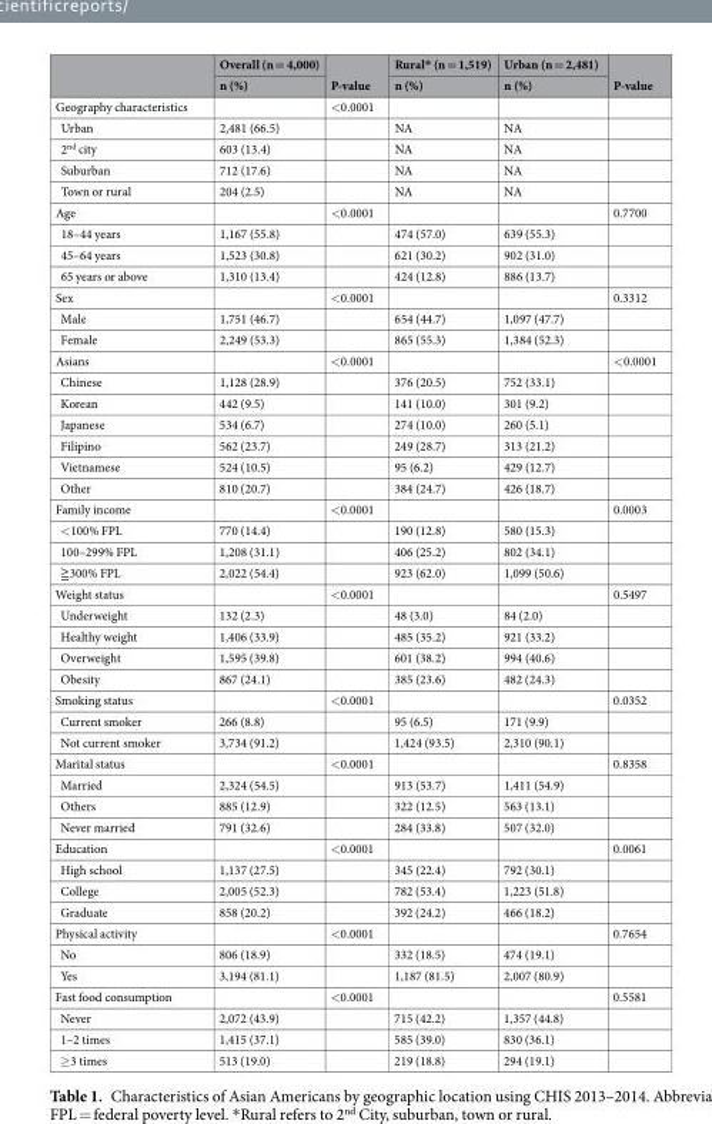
<table><thead><tr><td rowspan="2"></td><td rowspan="2">Overall (n = 4,000) n (%)</td><td rowspan="2">P-value</td><td rowspan="2">Rural* (n = 1,519) n (%)</td><td rowspan="2">Urban (n = 2,481) n (%)</td><td rowspan="2">P-value</td></tr><tr></tr></thead><tbody><tr><td>Geography characteristics</td><td></td><td>&lt;0.0001</td><td></td><td></td><td></td></tr><tr><td>Urban</td><td>2,481 (66.5)</td><td></td><td>NA</td><td>NA</td><td></td></tr><tr><td>2<sup>nd</sup> city</td><td>603 (13.4)</td><td></td><td>NA</td><td>NA</td><td></td></tr><tr><td>Suburban</td><td>712 (17.6)</td><td></td><td>NA</td><td>NA</td><td></td></tr><tr><td>Town or rural</td><td>204 (2.5)</td><td></td><td>NA</td><td>NA</td><td></td></tr><tr><td>Age</td><td></td><td>&lt;0.0001</td><td></td><td></td><td>0.7700</td></tr><tr><td>18–44 years</td><td>1,167 (55.8)</td><td></td><td>474 (57.0)</td><td>639 (55.3)</td><td></td></tr><tr><td>45–64 years</td><td>1,523 (30.8)</td><td></td><td>621 (30.2)</td><td>902 (31.0)</td><td></td></tr><tr><td>65 years or above</td><td>1,310 (13.4)</td><td></td><td>424 (12.8)</td><td>886 (13.7)</td><td></td></tr><tr><td>Sex</td><td></td><td>&lt;0.0001</td><td></td><td></td><td>0.3312</td></tr><tr><td>Male</td><td>1,751 (46.7)</td><td></td><td>654 (44.7)</td><td>1,097 (47.7)</td><td></td></tr><tr><td>Female</td><td>2,249 (53.3)</td><td></td><td>865 (55.3)</td><td>1,384 (52.3)</td><td></td></tr><tr><td>Asians</td><td></td><td>&lt;0.0001</td><td></td><td></td><td>&lt;0.0001</td></tr><tr><td>Chinese</td><td>1,128 (28.9)</td><td></td><td>376 (20.5)</td><td>752 (33.1)</td><td></td></tr><tr><td>Korean</td><td>442 (9.5)</td><td></td><td>141 (10.0)</td><td>301 (9.2)</td><td></td></tr><tr><td>Japanese</td><td>534 (6.7)</td><td></td><td>274 (10.0)</td><td>260 (5.1)</td><td></td></tr><tr><td>Filipino</td><td>562 (23.7)</td><td></td><td>249 (28.7)</td><td>313 (21.2)</td><td></td></tr><tr><td>Vietnamese</td><td>524 (10.5)</td><td></td><td>95 (6.2)</td><td>429 (12.7)</td><td></td></tr><tr><td>Other</td><td>810 (20.7)</td><td></td><td>384 (24.7)</td><td>426 (18.7)</td><td></td></tr><tr><td>Family income</td><td></td><td>&lt;0.0001</td><td></td><td></td><td>0.0003</td></tr><tr><td>&lt;100% FPL</td><td>770 (14.4)</td><td></td><td>190 (12.8)</td><td>580 (15.3)</td><td></td></tr><tr><td>100–299% FPL</td><td>1,208 (31.1)</td><td></td><td>406 (25.2)</td><td>802 (34.1)</td><td></td></tr><tr><td>≧300% FPL</td><td>2,022 (54.4)</td><td></td><td>923 (62.0)</td><td>1,099 (50.6)</td><td></td></tr><tr><td>Weight status</td><td></td><td>&lt;0.0001</td><td></td><td></td><td>0.5497</td></tr><tr><td>Underweight</td><td>132 (2.3)</td><td></td><td>48 (3.0)</td><td>84 (2.0)</td><td></td></tr><tr><td>Healthy weight</td><td>1,406 (33.9)</td><td></td><td>485 (35.2)</td><td>921 (33.2)</td><td></td></tr><tr><td>Overweight</td><td>1,595 (39.8)</td><td></td><td>601 (38.2)</td><td>994 (40.6)</td><td></td></tr><tr><td>Obesity</td><td>867 (24.1)</td><td></td><td>385 (23.6)</td><td>482 (24.3)</td><td></td></tr><tr><td>Smoking status</td><td></td><td>&lt;0.0001</td><td></td><td></td><td>0.0352</td></tr><tr><td>Current smoker</td><td>266 (8.8)</td><td></td><td>95 (6.5)</td><td>171 (9.9)</td><td></td></tr><tr><td>Not current smoker</td><td>3,734 (91.2)</td><td></td><td>1,424 (93.5)</td><td>2,310 (90.1)</td><td></td></tr><tr><td>Marital status</td><td></td><td>&lt;0.0001</td><td></td><td></td><td>0.8358</td></tr><tr><td>Married</td><td>2,324 (54.5)</td><td></td><td>913 (53.7)</td><td>1,411 (54.9)</td><td></td></tr><tr><td>Others</td><td>885 (12.9)</td><td></td><td>322 (12.5)</td><td>563 (13.1)</td><td></td></tr><tr><td>Never married</td><td>791 (32.6)</td><td></td><td>284 (33.8)</td><td>507 (32.0)</td><td></td></tr><tr><td>Education</td><td></td><td>&lt;0.0001</td><td></td><td></td><td>0.0061</td></tr><tr><td>High school</td><td>1,137 (27.5)</td><td></td><td>345 (22.4)</td><td>792 (30.1)</td><td></td></tr><tr><td>College</td><td>2,005 (52.3)</td><td></td><td>782 (53.4)</td><td>1,223 (51.8)</td><td></td></tr><tr><td>Graduate</td><td>858 (20.2)</td><td></td><td>392 (24.2)</td><td>466 (18.2)</td><td></td></tr><tr><td>Physical activity</td><td></td><td>&lt;0.0001</td><td></td><td></td><td>0.7654</td></tr><tr><td>No</td><td>806 (18.9)</td><td></td><td>332 (18.5)</td><td>474 (19.1)</td><td></td></tr><tr><td>Yes</td><td>3,194 (81.1)</td><td></td><td>1,187 (81.5)</td><td>2,007 (80.9)</td><td></td></tr><tr><td>Fast food consumption</td><td></td><td>&lt;0.0001</td><td></td><td></td><td>0.5581</td></tr><tr><td>Never</td><td>2,072 (43.9)</td><td></td><td>715 (42.2)</td><td>1,357 (44.8)</td><td></td></tr><tr><td>1–2 times</td><td>1,415 (37.1)</td><td></td><td>585 (39.0)</td><td>830 (36.1)</td><td></td></tr><tr><td>≥3 times</td><td>513 (19.0)</td><td></td><td>219 (18.8)</td><td>294 (19.1)</td><td></td></tr></tbody></table>